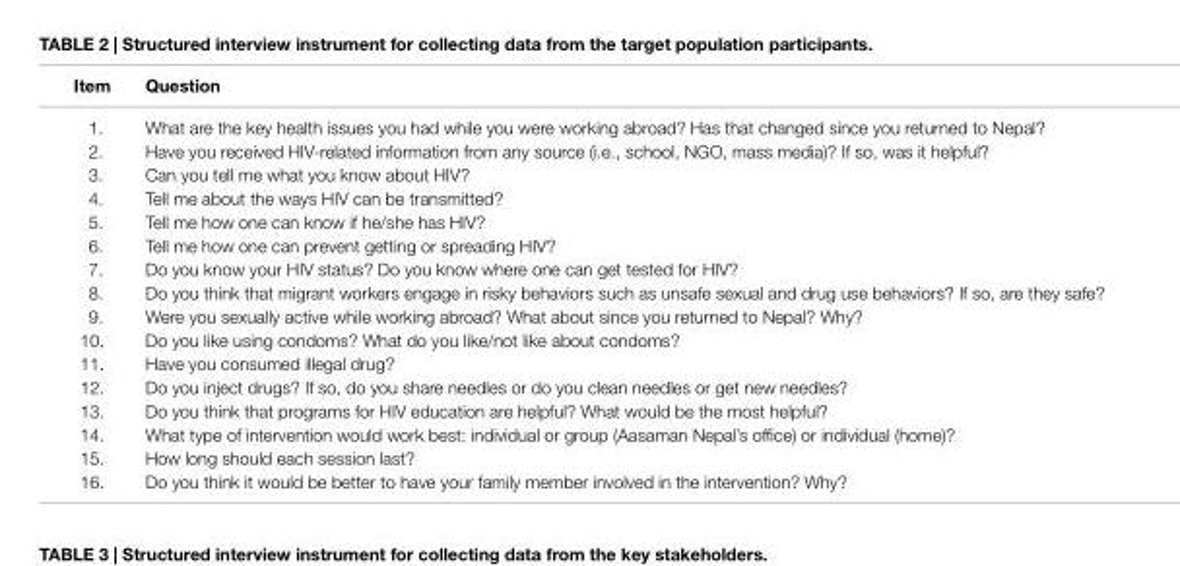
<table><thead><tr><td>item</td><td>Question</td></tr></thead><tbody><tr><td>1.</td><td>What are the key health issues you had while you were working abroad? Has that changed since you returned to Nepal?</td></tr><tr><td>2.</td><td>Have you received HIV-related information from any source (i.e., school, NGO, mass media)? If so, was it helpful?</td></tr><tr><td>3.</td><td>Can you tell me what you know about HIV?</td></tr><tr><td>4.</td><td>Tell me about the ways HIV can be transmitted?</td></tr><tr><td>5.</td><td>Tell me how one can know if he/she has HIV?</td></tr><tr><td>6.</td><td>Tell me how one can prevent getting or spreading HIV?</td></tr><tr><td>7.</td><td>Do you know your HIV status? Do you know where one can get tested for HIV?</td></tr><tr><td>8.</td><td>Do you think that migrant workers engage in risky behaviors such as unsafe sexual and drug use behaviors? If so, are they safe?</td></tr><tr><td>9.</td><td>Were you sexually active while working abroad? What about since you returned to Nepal? Why?</td></tr><tr><td>10.</td><td>Do you like using condoms? What do you like/not like about condoms?</td></tr><tr><td>11.</td><td>Have you consumed illegal drug?</td></tr><tr><td>12.</td><td>Do you inject drugs? If so, do you share needles or do you clean needles or get new needles?</td></tr><tr><td>13.</td><td>Do you think that programs for HIV education are helpful? What would be the most helpful?</td></tr><tr><td>14.</td><td>What type of intervention would work best: individual or group (Aasaman Nepal’s office) or individual (home)?</td></tr><tr><td>15.</td><td>How long should each session last?</td></tr><tr><td>16.</td><td>Do you think it would be better to have your family member involved in the intervention? Why?</td></tr></tbody></table>